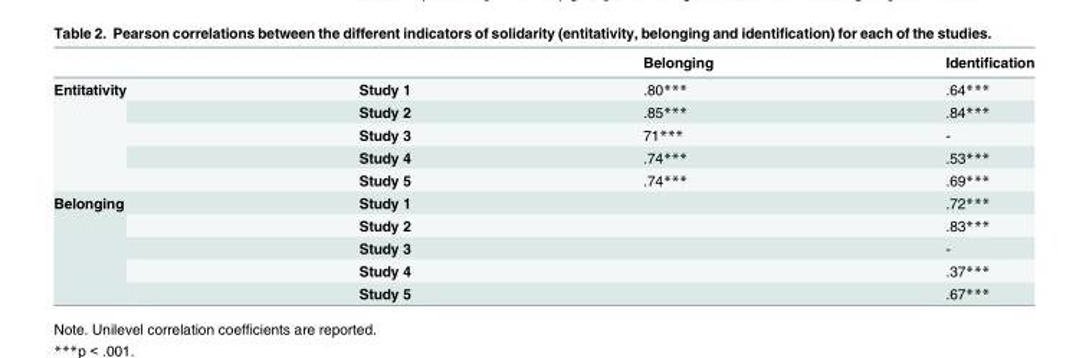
<table><thead><tr><td></td><td></td><td>Belonging</td><td>Identification</td></tr></thead><tbody><tr><td rowspan="5">Entitativity</td><td>Study 1</td><td>.80***</td><td>.64***</td></tr><tr><td>Study 2</td><td>.85***</td><td>.84***</td></tr><tr><td>Study 3</td><td>71***</td><td>-</td></tr><tr><td>Study 4</td><td>.74***</td><td>.53***</td></tr><tr><td>Study 5</td><td>.74***</td><td>.69***</td></tr><tr><td rowspan="5">Belonging</td><td>Study 1</td><td></td><td>.72***</td></tr><tr><td>Study 2</td><td></td><td>.83***</td></tr><tr><td>Study 3</td><td></td><td>-</td></tr><tr><td>Study 4</td><td></td><td>.37***</td></tr><tr><td>Study 5</td><td></td><td>.67***</td></tr></tbody></table>